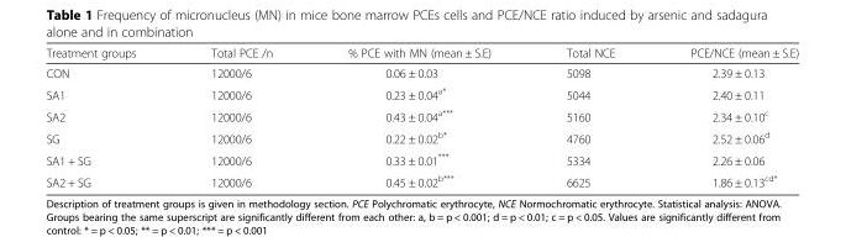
<table><thead><tr><td>Treatment groups</td><td>Total PCE /n</td><td>% PCE with MN (mean ± S.E)</td><td>Total NCE</td><td>PCE/NCE (mean ± S.E)</td></tr></thead><tbody><tr><td>CON</td><td>12000/6</td><td>0.06 ± 0.03</td><td>5098</td><td>2.39 ± 0.13</td></tr><tr><td>SA1</td><td>12000/6</td><td>0.23 ± 0.04<sup>a*</sup></td><td>5044</td><td>2.40 ± 0.11</td></tr><tr><td>SA2</td><td>12000/6</td><td>0.43 ± 0.04<sup>a***</sup></td><td>5160</td><td>2.34 ± 0.10<sup>c</sup></td></tr><tr><td>SG</td><td>12000/6</td><td>0.22 ± 0.02<sup>b*</sup></td><td>4760</td><td>2.52 ± 0.06<sup>d</sup></td></tr><tr><td>SA1 + SG</td><td>12000/6</td><td>0.33 ± 0.01***</td><td>5334</td><td>2.26 ± 0.06</td></tr><tr><td>SA2 + SG</td><td>12000/6</td><td>0.45 ± 0.02<sup>b***</sup></td><td>6625</td><td>1.86 ± 0.13<sup>cd*</sup></td></tr></tbody></table>